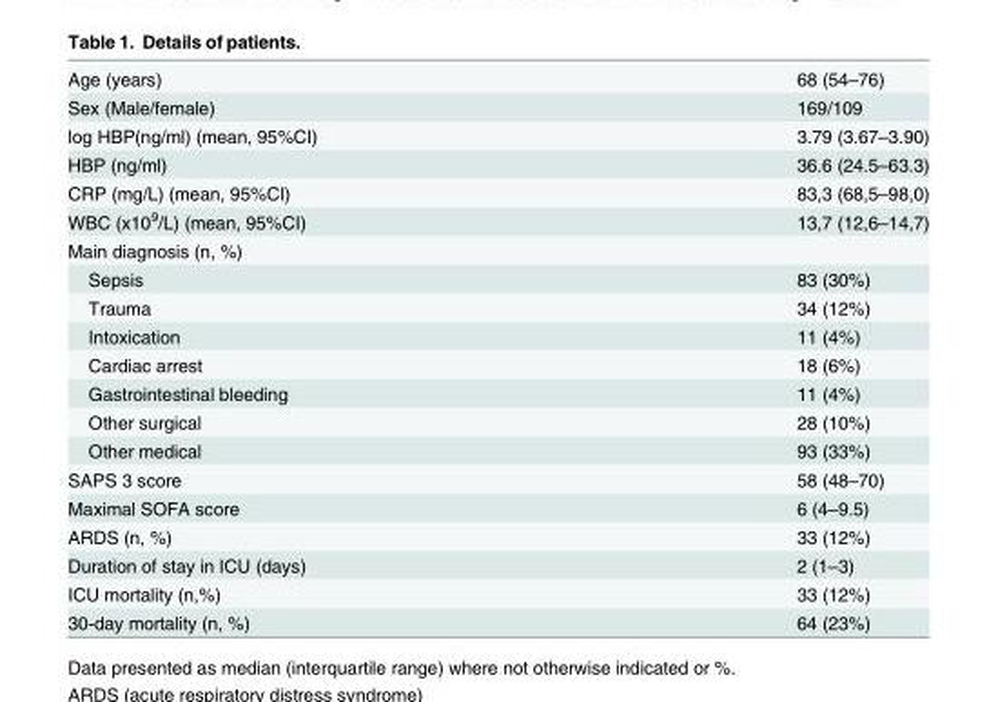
<table><tbody><tr><td>Age (years)</td><td>68 (54–76)</td></tr><tr><td>Sex (Male/female)</td><td>169/109</td></tr><tr><td>log HBP(ng/ml) (mean, 95%CI)</td><td>3.79 (3.67–3.90)</td></tr><tr><td>HBP (ng/ml)</td><td>36.6 (24.5–63.3)</td></tr><tr><td>CRP (mg/L) (mean, 95%CI)</td><td>83,3 (68,5–98,0)</td></tr><tr><td>WBC (x10<sup>9</sup>/L) (mean, 95%CI)</td><td>13,7 (12,6–14,7)</td></tr><tr><td colspan="2">Main diagnosis (n, %)</td></tr><tr><td>Sepsis</td><td>83 (30%)</td></tr><tr><td>Trauma</td><td>34 (12%)</td></tr><tr><td>Intoxication</td><td>11 (4%)</td></tr><tr><td>Cardiac arrest</td><td>18 (6%)</td></tr><tr><td>Gastrointestinal bleeding</td><td>11 (4%)</td></tr><tr><td>Other surgical</td><td>28 (10%)</td></tr><tr><td>Other medical</td><td>93 (33%)</td></tr><tr><td>SAPS 3 score</td><td>58 (48–70)</td></tr><tr><td>Maximal SOFA score</td><td>6 (4–9.5)</td></tr><tr><td>ARDS (n, %)</td><td>33 (12%)</td></tr><tr><td>Duration of stay in ICU (days)</td><td>2 (1–3)</td></tr><tr><td>ICU mortality (n,%)</td><td>33 (12%)</td></tr><tr><td>30-day mortality (n, %)</td><td>64 (23%)</td></tr></tbody></table>